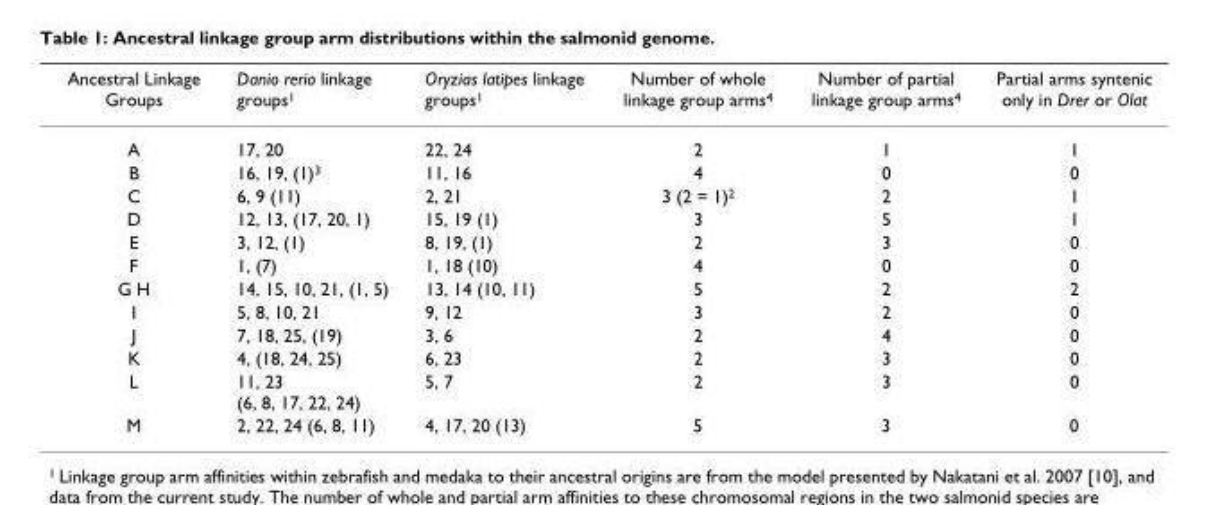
<table><thead><tr><td>Ancestral Linkage Groups</td><td>Danio rerio linkage groups<sup>1</sup></td><td>Oryzias latipes linkage groups<sup>1</sup></td><td>Number of whole linkage group arms<sup>4</sup></td><td>Number of partial linkage group arms<sup>4</sup></td><td>Partial arms syntenic only in Drer or Olat</td></tr></thead><tbody><tr><td>A</td><td>17, 20</td><td>22, 24</td><td>2</td><td>1</td><td>1</td></tr><tr><td>B</td><td>16, 19, (1)<sup>3</sup></td><td>11, 16</td><td>4</td><td>0</td><td>0</td></tr><tr><td>C</td><td>6, 9 (11)</td><td>2, 21</td><td>3 (2 = 1)<sup>2</sup></td><td>2</td><td>1</td></tr><tr><td>D</td><td>12, 13, (17, 20, 1)</td><td>15, 19 (1)</td><td>3</td><td>5</td><td>1</td></tr><tr><td>E</td><td>3, 12, (1)</td><td>8, 19, (1)</td><td>2</td><td>3</td><td>0</td></tr><tr><td>F</td><td>1, (7)</td><td>1, 18 (10)</td><td>4</td><td>0</td><td>0</td></tr><tr><td>G H</td><td>14, 15, 10, 21, (1, 5)</td><td>13, 14 (10, 11)</td><td>5</td><td>2</td><td>2</td></tr><tr><td>I</td><td>5, 8, 10, 21</td><td>9, 12</td><td>3</td><td>2</td><td>0</td></tr><tr><td>J</td><td>7, 18, 25, (19)</td><td>3, 6</td><td>2</td><td>4</td><td>0</td></tr><tr><td>K</td><td>4, (18, 24, 25)</td><td>6, 23</td><td>2</td><td>3</td><td>0</td></tr><tr><td>L</td><td>11, 23 (6, 8, 17, 22, 24)</td><td>5, 7</td><td>2</td><td>3</td><td>0</td></tr><tr><td>M</td><td>2, 22, 24 (6, 8, 11)</td><td>4, 17, 20 (13)</td><td>5</td><td>3</td><td>0</td></tr></tbody></table>